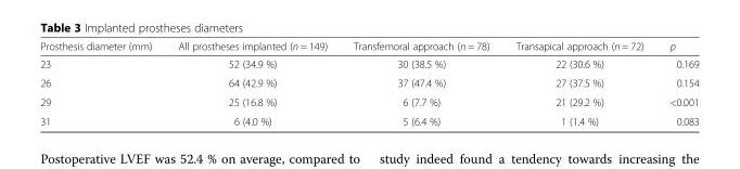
<table><thead><tr><td>Prosthesis diameter (mm)</td><td>All prostheses implanted (n = 149)</td><td>Transfemoral approach (n = 78)</td><td>Transapical approach (n = 72)</td><td>p</td></tr></thead><tbody><tr><td>23</td><td>52 (34.9 %)</td><td>30 (38.5 %)</td><td>22 (30.6 %)</td><td>0.169</td></tr><tr><td>26</td><td>64 (42.9 %)</td><td>37 (47.4 %)</td><td>27 (37.5 %)</td><td>0.154</td></tr><tr><td>29</td><td>25 (16.8 %)</td><td>6 (7.7 %)</td><td>21 (29.2 %)</td><td>&lt;0.001</td></tr><tr><td>31</td><td>6 (4.0 %)</td><td>5 (6.4 %)</td><td>1 (1.4 %)</td><td>0.083</td></tr></tbody></table>